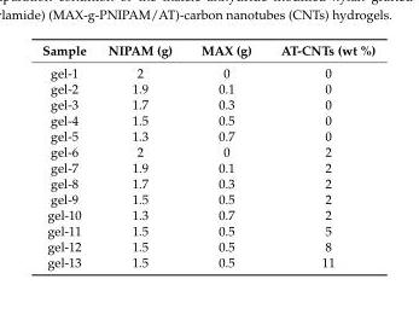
<table><thead><tr><td>Sample</td><td>NIPAM (g)</td><td>MAX (g)</td><td>AT-CNTs (wt %)</td></tr></thead><tbody><tr><td>gel-1</td><td>2</td><td>0</td><td>0</td></tr><tr><td>gel-2</td><td>1.9</td><td>0.1</td><td>0</td></tr><tr><td>gel-3</td><td>1.7</td><td>0.3</td><td>0</td></tr><tr><td>gel-4</td><td>1.5</td><td>0.5</td><td>0</td></tr><tr><td>gel-5</td><td>1.3</td><td>0.7</td><td>0</td></tr><tr><td>gel-6</td><td>2</td><td>0</td><td>2</td></tr><tr><td>gel-7</td><td>1.9</td><td>0.1</td><td>2</td></tr><tr><td>gel-8</td><td>1.7</td><td>0.3</td><td>2</td></tr><tr><td>gel-9</td><td>1.5</td><td>0.5</td><td>2</td></tr><tr><td>gel-10</td><td>1.3</td><td>0.7</td><td>2</td></tr><tr><td>gel-11</td><td>1.5</td><td>0.5</td><td>5</td></tr><tr><td>gel-12</td><td>1.5</td><td>0.5</td><td>8</td></tr><tr><td>gel-13</td><td>1.5</td><td>0.5</td><td>11</td></tr></tbody></table>